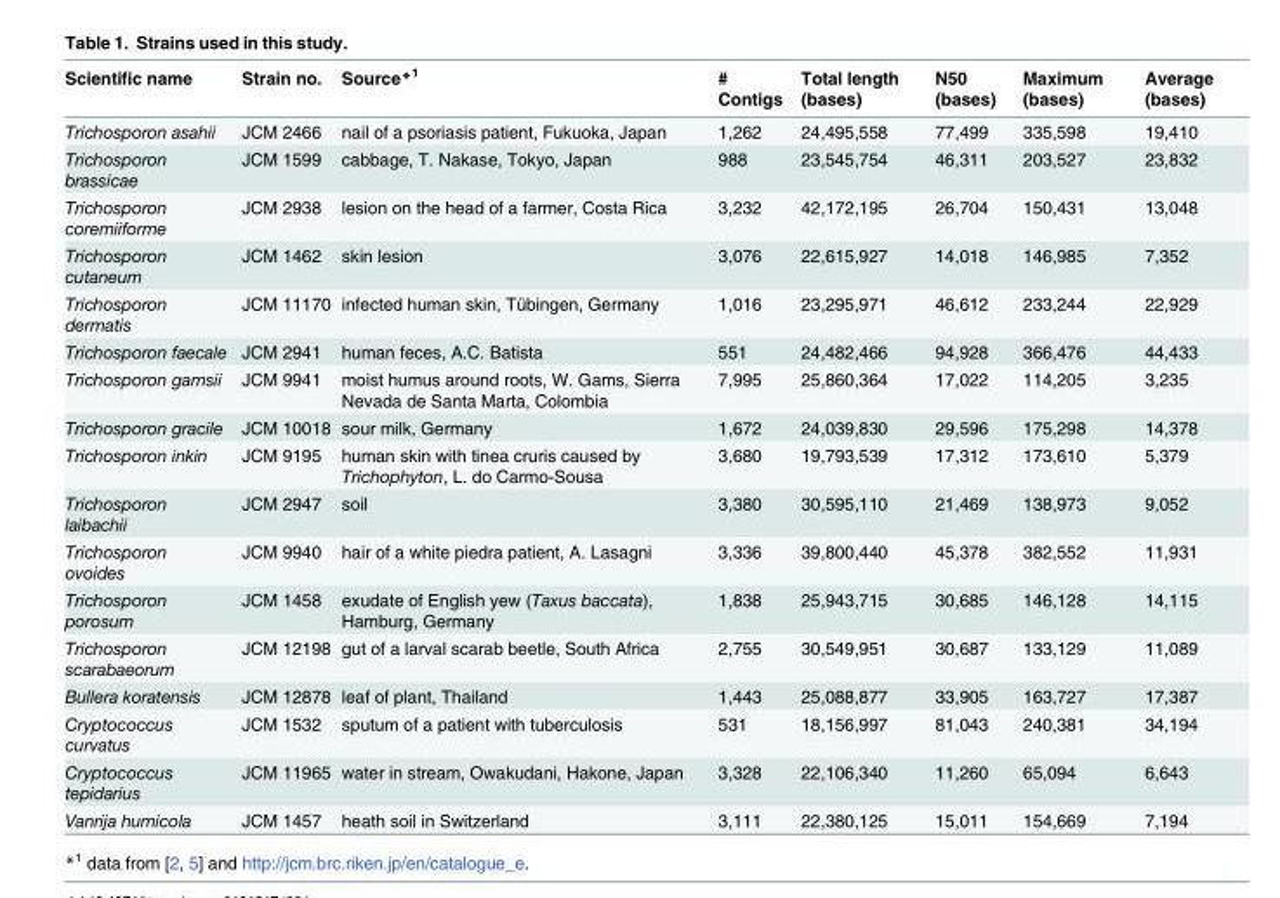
<table><thead><tr><td>Scientific name</td><td>Strain no.</td><td>Source*<sup>1</sup></td><td># Contigs</td><td>Total length (bases)</td><td>N50 (bases)</td><td>Maximum (bases)</td><td>Average (bases)</td></tr></thead><tbody><tr><td>Trichosporon asahii</td><td>JCM 2466</td><td>nail of a psoriasis patient, Fukuoka, Japan</td><td>1,262</td><td>24,495,558</td><td>77,499</td><td>335,598</td><td>19,410</td></tr><tr><td>Trichosporon brassicae</td><td>JCM 1599</td><td>cabbage, T. Nakase, Tokyo, Japan</td><td>988</td><td>23,545,754</td><td>46,311</td><td>203,527</td><td>23,832</td></tr><tr><td>Trichosporon coremiiforme</td><td>JCM 2938</td><td>lesion on the head of a farmer, Costa Rica</td><td>3,232</td><td>42,172,195</td><td>26,704</td><td>150,431</td><td>13,048</td></tr><tr><td>Trichosporon cutaneum</td><td>JCM 1462</td><td>skin lesion</td><td>3,076</td><td>22,615,927</td><td>14,018</td><td>146,985</td><td>7,352</td></tr><tr><td>Trichosporon dermatis</td><td>JCM 11170</td><td>infected human skin, Tübingen, Germany</td><td>1,016</td><td>23,295,971</td><td>46,612</td><td>233,244</td><td>22,929</td></tr><tr><td>Trichosporon faecale</td><td>JCM 2941</td><td>human feces, A.C. Batista</td><td>551</td><td>24,482,466</td><td>94,928</td><td>366,476</td><td>44,433</td></tr><tr><td>Trichosporon gamsii</td><td>JCM 9941</td><td>moist humus around roots, W. Gams, Sierra Nevada de Santa Marta, Colombia</td><td>7,995</td><td>25,860,364</td><td>17,022</td><td>114,205</td><td>3,235</td></tr><tr><td>Trichosporon gracile</td><td>JCM 10018</td><td>sour milk, Germany</td><td>1,672</td><td>24,039,830</td><td>29,596</td><td>175,298</td><td>14,378</td></tr><tr><td>Trichosporon inkin</td><td>JCM 9195</td><td>human skin with tinea cruris caused by Trichophyton, L. do Carmo-Sousa</td><td>3,680</td><td>19,793,539</td><td>17,312</td><td>173,610</td><td>5,379</td></tr><tr><td>Trichosporon laibachii</td><td>JCM 2947</td><td>soil</td><td>3,380</td><td>30,595,110</td><td>21,469</td><td>138,973</td><td>9,052</td></tr><tr><td>Trichosporon ovoides</td><td>JCM 9940</td><td>hair of a white piedra patient, A. Lasagni</td><td>3,336</td><td>39,800,440</td><td>45,378</td><td>382,552</td><td>11,931</td></tr><tr><td>Trichosporon porosum</td><td>JCM 1458</td><td>exudate of English yew (Taxus baccata), Hamburg, Germany</td><td>1,838</td><td>25,943,715</td><td>30,685</td><td>146,128</td><td>14,115</td></tr><tr><td>Trichosporon scarabaeorum</td><td>JCM 12198</td><td>gut of a larval scarab beetle, South Africa</td><td>2,755</td><td>30,549,951</td><td>30,687</td><td>133,129</td><td>11,089</td></tr><tr><td>Bullera koratensis</td><td>JCM 12878</td><td>leaf of plant, Thailand</td><td>1,443</td><td>25,088,877</td><td>33,905</td><td>163,727</td><td>17,387</td></tr><tr><td>Cryptococcus curvatus</td><td>JCM 1532</td><td>sputum of a patient with tuberculosis</td><td>531</td><td>18,156,997</td><td>81,043</td><td>240,381</td><td>34,194</td></tr><tr><td>Cryptococcus tepidarius</td><td>JCM 11965</td><td>water in stream, Owakudani, Hakone, Japan</td><td>3,328</td><td>22,106,340</td><td>11,260</td><td>65,094</td><td>6,643</td></tr><tr><td>Vanrija humicola</td><td>JCM 1457</td><td>heath soil in Switzerland</td><td>3,111</td><td>22,380,125</td><td>15,011</td><td>154,669</td><td>7,194</td></tr></tbody></table>